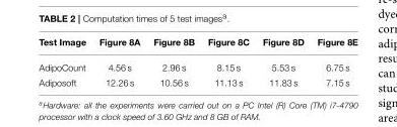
<table><thead><tr><td>Test Image</td><td>Figure 8A</td><td>Figure 8B</td><td>Figure 8C</td><td>Figure 8D</td><td>Figure 8E</td></tr></thead><tbody><tr><td>AdipoCount</td><td>4.56 s</td><td>2.96 s</td><td>8.15 s</td><td>5.53 s</td><td>6.75 s</td></tr><tr><td>Adiposoft</td><td>12.26 s</td><td>10.56 s</td><td>11.13 s</td><td>11.83 s</td><td>7.15 s</td></tr></tbody></table>